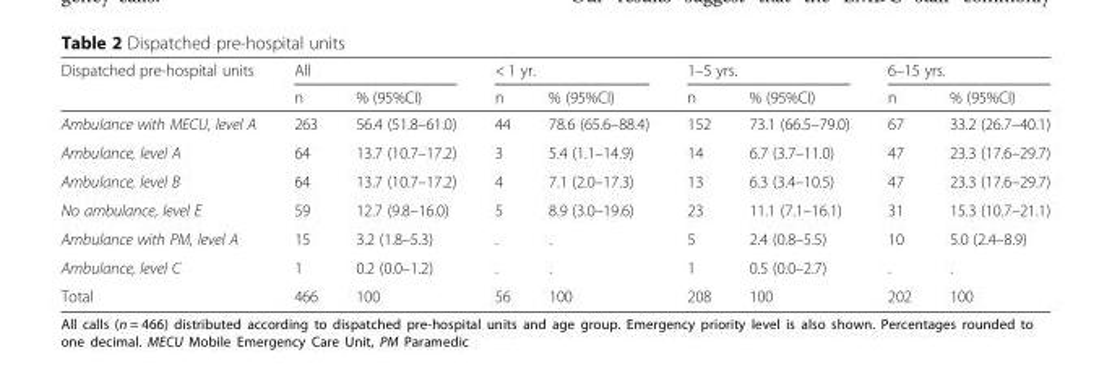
<table><thead><tr><td rowspan="2">Dispatched pre-hospital units</td><td colspan="2">All</td><td colspan="2">&lt; 1 yr.</td><td colspan="2">1–5 yrs.</td><td colspan="2">6–15 yrs.</td></tr><tr><td>n</td><td>% (95%CI)</td><td>n</td><td>% (95%CI)</td><td>n</td><td>% (95%CI)</td><td>n</td><td>% (95%CI)</td></tr></thead><tbody><tr><td>Ambulance with MECU, level A</td><td>263</td><td>56.4 (51.8–61.0)</td><td>44</td><td>78.6 (65.6–88.4)</td><td>152</td><td>73.1 (66.5–79.0)</td><td>67</td><td>33.2 (26.7–40.1)</td></tr><tr><td>Ambulance, level A</td><td>64</td><td>13.7 (10.7–17.2)</td><td>3</td><td>5.4 (1.1–14.9)</td><td>14</td><td>6.7 (3.7–11.0)</td><td>47</td><td>23.3 (17.6–29.7)</td></tr><tr><td>Ambulance, level B</td><td>64</td><td>13.7 (10.7–17.2)</td><td>4</td><td>7.1 (2.0–17.3)</td><td>13</td><td>6.3 (3.4–10.5)</td><td>47</td><td>23.3 (17.6–29.7)</td></tr><tr><td>No ambulance, level E</td><td>59</td><td>12.7 (9.8–16.0)</td><td>5</td><td>8.9 (3.0–19.6)</td><td>23</td><td>11.1 (7.1–16.1)</td><td>31</td><td>15.3 (10.7–21.1)</td></tr><tr><td>Ambulance with PM, level A</td><td>15</td><td>3.2 (1.8–5.3)</td><td>.</td><td>.</td><td>5</td><td>2.4 (0.8–5.5)</td><td>10</td><td>5.0 (2.4–8.9)</td></tr><tr><td>Ambulance, level C</td><td>1</td><td>0.2 (0.0–1.2)</td><td>.</td><td>.</td><td>1</td><td>0.5 (0.0–2.7)</td><td>.</td><td>.</td></tr><tr><td>Total</td><td>466</td><td>100</td><td>56</td><td>100</td><td>208</td><td>100</td><td>202</td><td>100</td></tr></tbody></table>